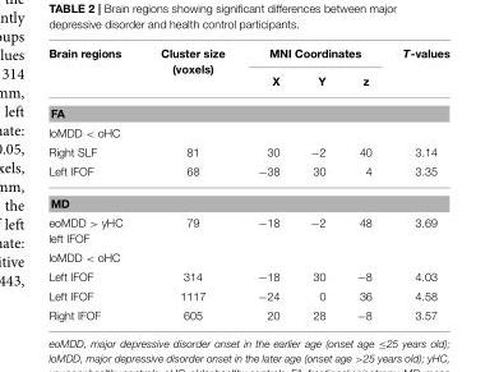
<table><thead><tr><td rowspan="2">Brain regions</td><td rowspan="2">Cluster size (voxels)</td><td colspan="3">MNI Coordinates</td><td rowspan="2">T-values</td></tr><tr><td>X</td><td>Y</td><td>z</td></tr></thead><tbody><tr><td colspan="6">FA</td></tr><tr><td colspan="6">loMDD &lt; oHC</td></tr><tr><td>Right SLF</td><td>81</td><td>30</td><td>−2</td><td>40</td><td>3.14</td></tr><tr><td>Left IFOF</td><td>68</td><td>−38</td><td>30</td><td>4</td><td>3.35</td></tr><tr><td colspan="6">MD</td></tr><tr><td>eoMDD &gt; yHC left IFOF</td><td>79</td><td>−18</td><td>−2</td><td>48</td><td>3.69</td></tr><tr><td colspan="6">loMDD &lt; oHC</td></tr><tr><td>Left IFOF</td><td>314</td><td>−18</td><td>30</td><td>−8</td><td>4.03</td></tr><tr><td>Left IFOF</td><td>1117</td><td>−24</td><td>0</td><td>36</td><td>4.58</td></tr><tr><td>Right IFOF</td><td>605</td><td>20</td><td>28</td><td>−8</td><td>3.57</td></tr></tbody></table>